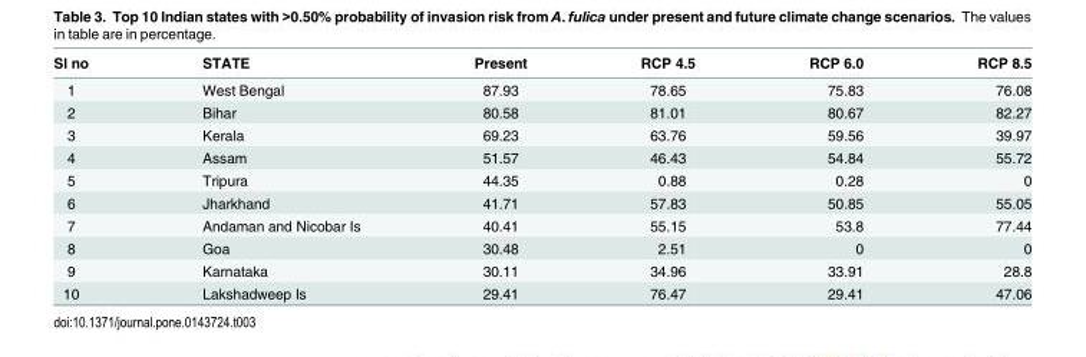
<table><thead><tr><td>Sl no</td><td>STATE</td><td>Present</td><td>RCP 4.5</td><td>RCP 6.0</td><td>RCP 8.5</td></tr></thead><tbody><tr><td>1</td><td>West Bengal</td><td>87.93</td><td>78.65</td><td>75.83</td><td>76.08</td></tr><tr><td>2</td><td>Bihar</td><td>80.58</td><td>81.01</td><td>80.67</td><td>82.27</td></tr><tr><td>3</td><td>Kerala</td><td>69.23</td><td>63.76</td><td>59.56</td><td>39.97</td></tr><tr><td>4</td><td>Assam</td><td>51.57</td><td>46.43</td><td>54.84</td><td>55.72</td></tr><tr><td>5</td><td>Tripura</td><td>44.35</td><td>0.88</td><td>0.28</td><td>0</td></tr><tr><td>6</td><td>Jharkhand</td><td>41.71</td><td>57.83</td><td>50.85</td><td>55.05</td></tr><tr><td>7</td><td>Andaman and Nicobar Is</td><td>40.41</td><td>55.15</td><td>53.8</td><td>77.44</td></tr><tr><td>8</td><td>Goa</td><td>30.48</td><td>2.51</td><td>0</td><td>0</td></tr><tr><td>9</td><td>Karnataka</td><td>30.11</td><td>34.96</td><td>33.91</td><td>28.8</td></tr><tr><td>10</td><td>Lakshadweep Is</td><td>29.41</td><td>76.47</td><td>29.41</td><td>47.06</td></tr></tbody></table>